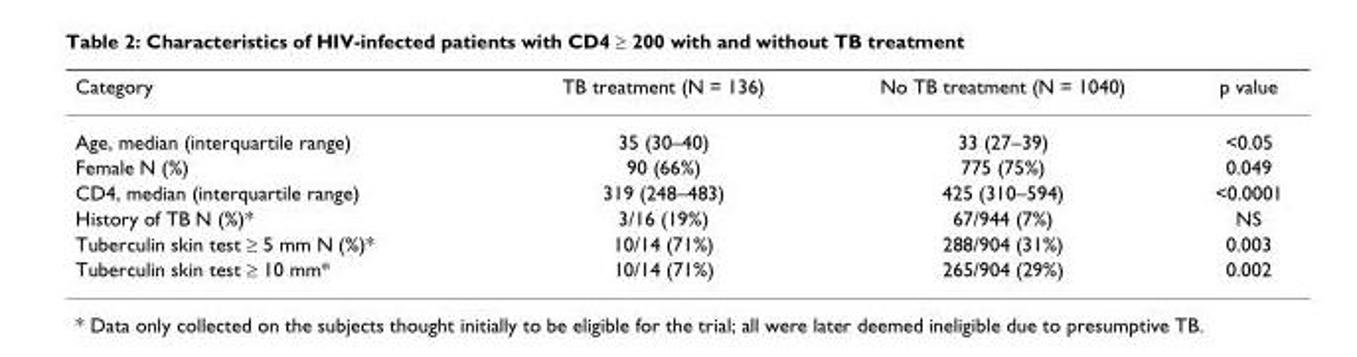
<table><thead><tr><td>Category</td><td>TB treatment (N = 136)</td><td>No TB treatment (N = 1040)</td><td>p value</td></tr></thead><tbody><tr><td>Age, median (interquartile range)</td><td>35 (30–40)</td><td>33 (27–39)</td><td>&lt;0.05</td></tr><tr><td>Female N (%)</td><td>90 (66%)</td><td>775 (75%)</td><td>0.049</td></tr><tr><td>CD4, median (interquartile range)</td><td>319 (248–483)</td><td>425 (310–594)</td><td>&lt;0.0001</td></tr><tr><td>History of TB N (%)*</td><td>3/16 (19%)</td><td>67/944 (7%)</td><td>NS</td></tr><tr><td>Tuberculin skin test ≥ 5 mm N (%)*</td><td>10/14 (71%)</td><td>288/904 (31%)</td><td>0.003</td></tr><tr><td>Tuberculin skin test ≥ 10 mm*</td><td>10/14 (71%)</td><td>265/904 (29%)</td><td>0.002</td></tr></tbody></table>